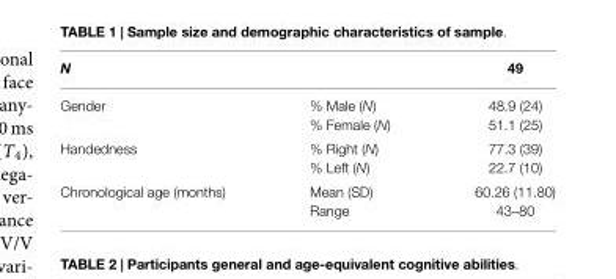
<table><thead><tr><td>N</td><td></td><td>49</td></tr></thead><tbody><tr><td rowspan="2">Gender</td><td>% Male (N)</td><td>48.9 (24)</td></tr><tr><td>% Female (N)</td><td>51.1 (25)</td></tr><tr><td rowspan="2">Handedness</td><td>% Right (N)</td><td>77.3 (39)</td></tr><tr><td>% Left (N)</td><td>22.7 (10)</td></tr><tr><td rowspan="2">Chronological age (months)</td><td>Mean (SD)</td><td>60.26 (11.80)</td></tr><tr><td>Range</td><td>43–80</td></tr></tbody></table>